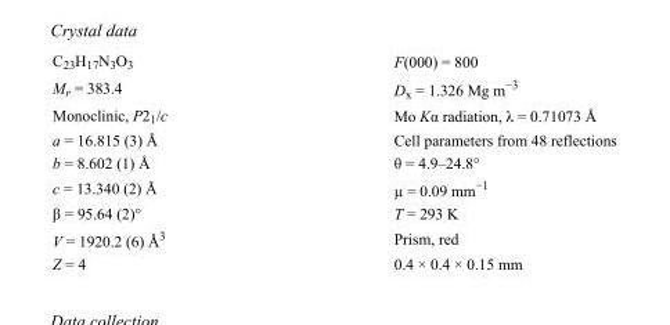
<table><tbody><tr><td>C<sub>23</sub>H<sub>17</sub>N<sub>3</sub>O<sub>3</sub></td><td>F(000) = 800</td></tr><tr><td>M<sub>r</sub> = 383.4</td><td>D<sub>x</sub> = 1.326 Mg m<sup>−3</sup></td></tr><tr><td>Monoclinic, P2<sub>1</sub>/c</td><td>Mo Kα radiation, λ = 0.71073 Å</td></tr><tr><td>a = 16.815 (3) Å</td><td>Cell parameters from 48 reflections</td></tr><tr><td>b = 8.602 (1) Å</td><td>θ = 4.9–24.8°</td></tr><tr><td>c = 13.340 (2) Å</td><td>µ = 0.09 mm<sup>−1</sup></td></tr><tr><td>β = 95.64 (2)°</td><td>T = 293 K</td></tr><tr><td>V = 1920.2 (6) Å<sup>3</sup></td><td>Prism, red</td></tr><tr><td>Z = 4</td><td>0.4 × 0.4 × 0.15 mm</td></tr></tbody></table>